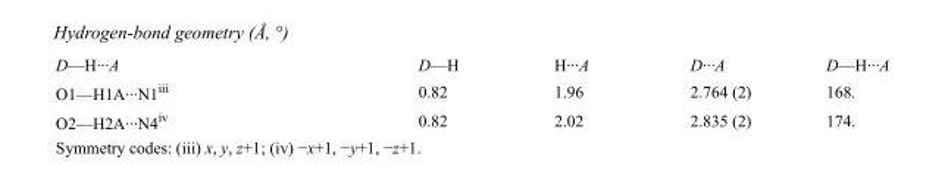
<table><tbody><tr><td>D—H···A</td><td>D—H</td><td>H···A</td><td>D···A</td><td>D—H···A</td></tr><tr><td>O1—H1A···N1<sup>iii</sup></td><td>0.82</td><td>1.96</td><td>2.764 (2)</td><td>168.</td></tr><tr><td>O2—H2A···N4<sup>iv</sup></td><td>0.82</td><td>2.02</td><td>2.835 (2)</td><td>174.</td></tr></tbody></table>